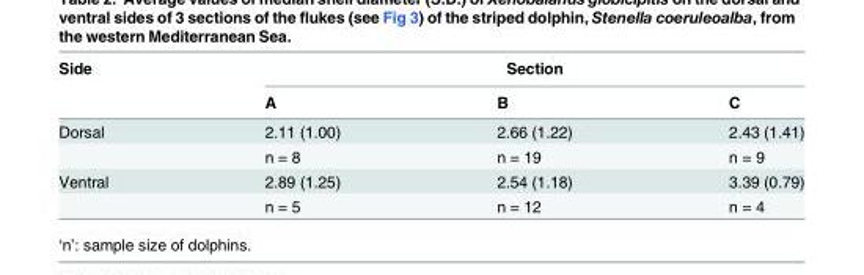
<table><thead><tr><td rowspan="2">Side</td><td colspan="3">Section</td></tr><tr><td>A</td><td>B</td><td>C</td></tr></thead><tbody><tr><td rowspan="2">Dorsal</td><td>2.11 (1.00)</td><td>2.66 (1.22)</td><td>2.43 (1.41)</td></tr><tr><td>n = 8</td><td>n = 19</td><td>n = 9</td></tr><tr><td rowspan="2">Ventral</td><td>2.89 (1.25)</td><td>2.54 (1.18)</td><td>3.39 (0.79)</td></tr><tr><td>n = 5</td><td>n = 12</td><td>n = 4</td></tr></tbody></table>